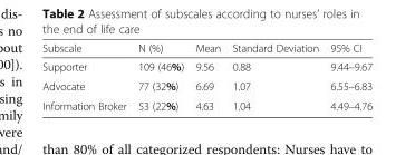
<table><thead><tr><td>Subscale</td><td>N (%)</td><td>Mean</td><td>Standard Deviation</td><td>95% CI</td></tr></thead><tbody><tr><td>Supporter</td><td>109 (46%)</td><td>9.56</td><td>0.88</td><td>9.44–9.67</td></tr><tr><td>Advocate</td><td>77 (32%)</td><td>6.69</td><td>1.07</td><td>6.55–6.83</td></tr><tr><td>Information Broker</td><td>53 (22%)</td><td>4.63</td><td>1.04</td><td>4.49–4.76</td></tr></tbody></table>